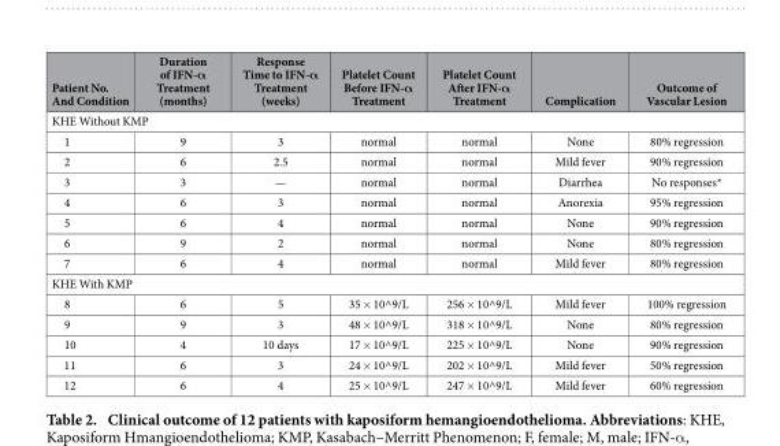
<table><thead><tr><td>Patient No. And Condition</td><td>Duration of IFN-α Treatment (months)</td><td>Response Time to IFN-α Treatment (weeks)</td><td>Platelet Count Before IFN-α Treatment</td><td>Platelet Count After IFN-α Treatment</td><td>Complication</td><td>Outcome of Vascular Lesion</td></tr></thead><tbody><tr><td colspan="7">KHE Without KMP</td></tr><tr><td>1</td><td>9</td><td>3</td><td>normal</td><td>normal</td><td>None</td><td>80% regression</td></tr><tr><td>2</td><td>6</td><td>2.5</td><td>normal</td><td>normal</td><td>Mild fever</td><td>90% regression</td></tr><tr><td>3</td><td>3</td><td>—</td><td>normal</td><td>normal</td><td>Diarrhea</td><td>No responses*</td></tr><tr><td>4</td><td>6</td><td>3</td><td>normal</td><td>normal</td><td>Anorexia</td><td>95% regression</td></tr><tr><td>5</td><td>6</td><td>4</td><td>normal</td><td>normal</td><td>None</td><td>90% regression</td></tr><tr><td>6</td><td>9</td><td>2</td><td>normal</td><td>normal</td><td>None</td><td>80% regression</td></tr><tr><td>7</td><td>6</td><td>4</td><td>normal</td><td>normal</td><td>Mild fever</td><td>80% regression</td></tr><tr><td colspan="7">KHE With KMP</td></tr><tr><td>8</td><td>6</td><td>5</td><td>35 × 10^9/L</td><td>256 × 10^9/L</td><td>Mild fever</td><td>100% regression</td></tr><tr><td>9</td><td>9</td><td>3</td><td>48 × 10^9/L</td><td>318 × 10^9/L</td><td>None</td><td>80% regression</td></tr><tr><td>10</td><td>4</td><td>10 days</td><td>17 × 10^9/L</td><td>225 × 10^9/L</td><td>None</td><td>90% regression</td></tr><tr><td>11</td><td>6</td><td>3</td><td>24 × 10^9/L</td><td>202 × 10^9/L</td><td>Mild fever</td><td>50% regression</td></tr><tr><td>12</td><td>6</td><td>4</td><td>25 × 10^9/L</td><td>247 × 10^9/L</td><td>Mild fever</td><td>60% regression</td></tr></tbody></table>